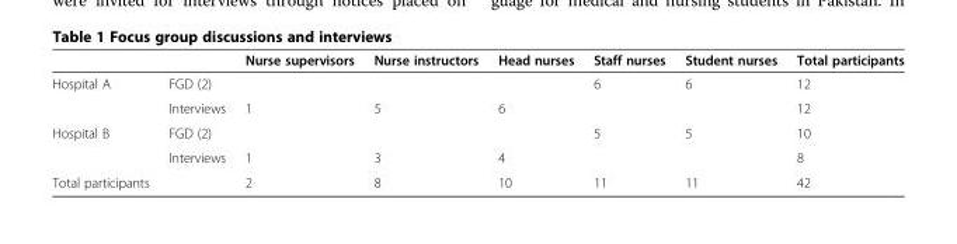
<table><thead><tr><td></td><td></td><td>Nurse supervisors</td><td>Nurse instructors</td><td>Head nurses</td><td>Staff nurses</td><td>Student nurses</td><td>Total participants</td></tr></thead><tbody><tr><td rowspan="2">Hospital A</td><td>FGD (2)</td><td></td><td></td><td></td><td>6</td><td>6</td><td>12</td></tr><tr><td>Interviews</td><td>1</td><td>5</td><td>6</td><td></td><td></td><td>12</td></tr><tr><td rowspan="2">Hospital B</td><td>FGD (2)</td><td></td><td></td><td></td><td>5</td><td>5</td><td>10</td></tr><tr><td>Interviews</td><td>1</td><td>3</td><td>4</td><td></td><td></td><td>8</td></tr><tr><td>Total participants</td><td></td><td>2</td><td>8</td><td>10</td><td>11</td><td>11</td><td>42</td></tr></tbody></table>